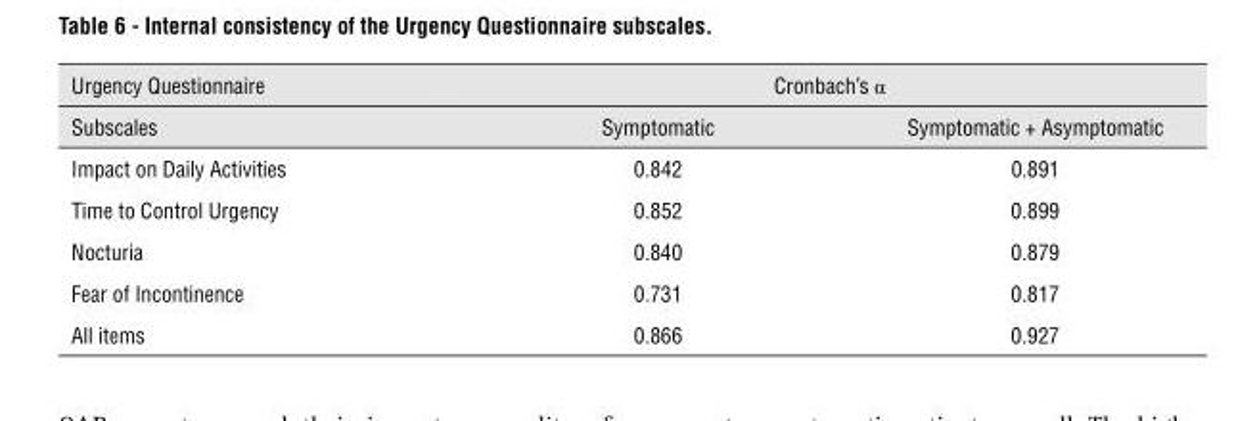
<table><thead><tr><td rowspan="2">Urgency Questionnaire Subscales</td><td colspan="2">Cronbach’s α</td></tr><tr><td>Symptomatic</td><td>Symptomatic + Asymptomatic</td></tr></thead><tbody><tr><td>Impact on Daily Activities</td><td>0.842</td><td>0.891</td></tr><tr><td>Time to Control Urgency</td><td>0.852</td><td>0.899</td></tr><tr><td>Nocturia</td><td>0.840</td><td>0.879</td></tr><tr><td>Fear of Incontinence</td><td>0.731</td><td>0.817</td></tr><tr><td>All items</td><td>0.866</td><td>0.927</td></tr></tbody></table>